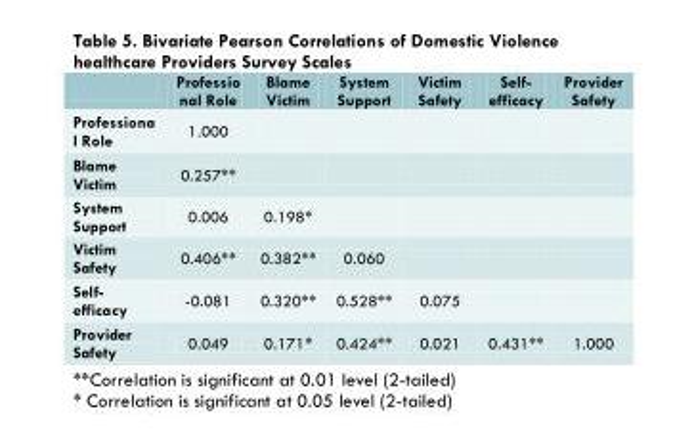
<table><thead><tr><td></td><td>Professio nal Role</td><td>Blame Victim</td><td>System Support</td><td>Victim Safety</td><td>Self- efficacy</td><td>Provider Safety</td></tr></thead><tbody><tr><td>Professiona l Role</td><td>1.000</td><td></td><td></td><td></td><td></td><td></td></tr><tr><td>Blame Victim</td><td>0.257**</td><td></td><td></td><td></td><td></td><td></td></tr><tr><td>System Support</td><td>0.006</td><td>0.198*</td><td></td><td></td><td></td><td></td></tr><tr><td>Victim Safety</td><td>0.406**</td><td>0.382**</td><td>0.060</td><td></td><td></td><td></td></tr><tr><td>Self- efficacy</td><td>-0.081</td><td>0.320**</td><td>0.528**</td><td>0.075</td><td></td><td></td></tr><tr><td>Provider Safety</td><td>0.049</td><td>0.171*</td><td>0.424**</td><td>0.021</td><td>0.431**</td><td>1.000</td></tr></tbody></table>